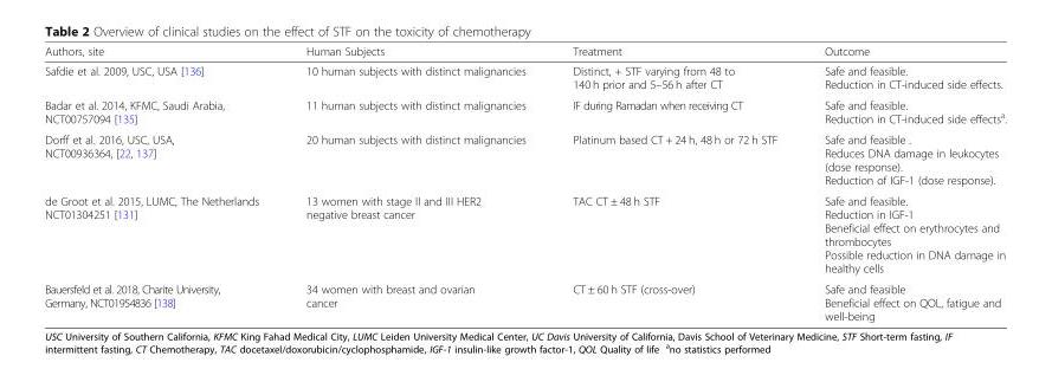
<table><thead><tr><td>Authors, site</td><td>Human Subjects</td><td>Treatment</td><td>Outcome</td></tr></thead><tbody><tr><td>Safdie et al. 2009, USC, USA [136]</td><td>10 human subjects with distinct malignancies</td><td>Distinct, + STF varying from 48 to 140 h prior and 5–56 h after CT</td><td>Safe and feasible. Reduction in CT-induced side effects.</td></tr><tr><td>Badar et al. 2014, KFMC, Saudi Arabia, NCT00757094 [135]</td><td>11 human subjects with distinct malignancies</td><td>IF during Ramadan when receiving CT</td><td>Safe and feasible. Reduction in CT-induced side effects<sup>a</sup>.</td></tr><tr><td>Dorff et al. 2016, USC, USA, NCT00936364, [22, 137]</td><td>20 human subjects with distinct malignancies</td><td>Platinum based CT + 24 h, 48 h or 72 h STF</td><td>Safe and feasible . Reduces DNA damage in leukocytes (dose response). Reduction of IGF-1 (dose response).</td></tr><tr><td>de Groot et al. 2015, LUMC, The Netherlands NCT01304251 [131]</td><td>13 women with stage II and III HER2 negative breast cancer</td><td>TAC CT ± 48 h STF</td><td>Safe and feasible. Reduction in IGF-1 Beneficial effect on erythrocytes and thrombocytes Possible reduction in DNA damage in healthy cells</td></tr><tr><td>Bauersfeld et al. 2018, Charite University, Germany, NCT01954836 [138]</td><td>34 women with breast and ovarian cancer</td><td>CT ± 60 h STF (cross-over)</td><td>Safe and feasible Beneficial effect on QOL, fatigue and well-being</td></tr></tbody></table>